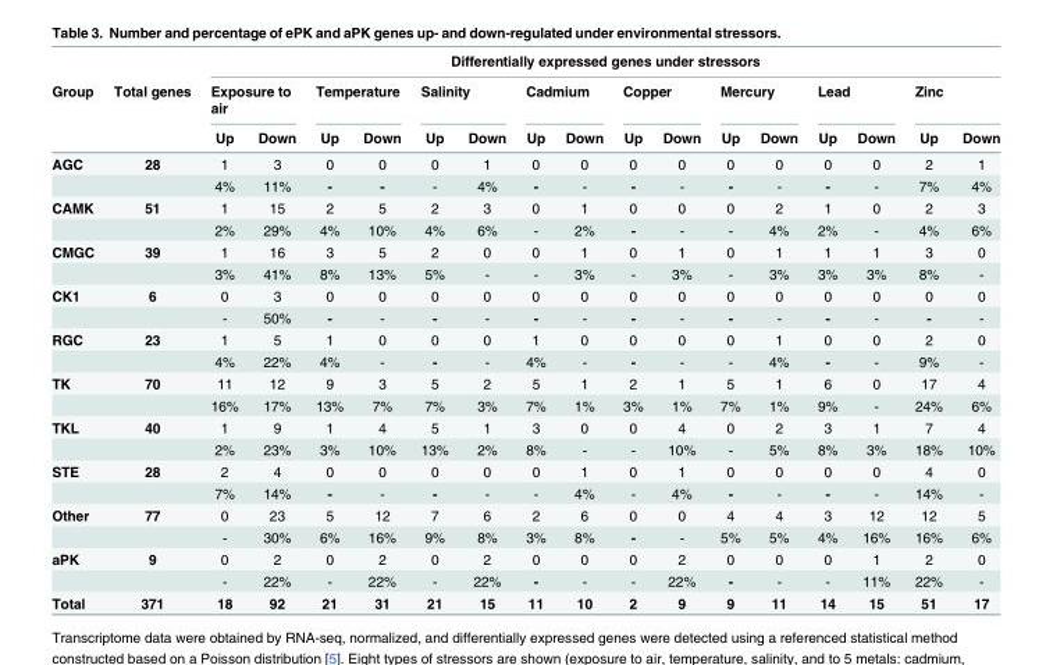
<table><thead><tr><td rowspan="3">Group</td><td rowspan="3">Total genes</td><td colspan="16">Differentially expressed genes under stressors</td></tr><tr><td colspan="2">Exposure to air</td><td colspan="2">Temperature</td><td colspan="2">Salinity</td><td colspan="2">Cadmium</td><td colspan="2">Copper</td><td colspan="2">Mercury</td><td colspan="2">Lead</td><td colspan="2">Zinc</td></tr><tr><td>Up</td><td>Down</td><td>Up</td><td>Down</td><td>Up</td><td>Down</td><td>Up</td><td>Down</td><td>Up</td><td>Down</td><td>Up</td><td>Down</td><td>Up</td><td>Down</td><td>Up</td><td>Down</td></tr></thead><tbody><tr><td rowspan="2">AGC</td><td>28</td><td>1</td><td>3</td><td>0</td><td>0</td><td>0</td><td>1</td><td>0</td><td>0</td><td>0</td><td>0</td><td>0</td><td>0</td><td>0</td><td>0</td><td>2</td><td>1</td></tr><tr><td></td><td>4%</td><td>11%</td><td>-</td><td>-</td><td>-</td><td>4%</td><td>-</td><td>-</td><td>-</td><td>-</td><td>-</td><td>-</td><td>-</td><td>-</td><td>7%</td><td>4%</td></tr><tr><td rowspan="2">CAMK</td><td>51</td><td>1</td><td>15</td><td>2</td><td>5</td><td>2</td><td>3</td><td>0</td><td>1</td><td>0</td><td>0</td><td>0</td><td>2</td><td>1</td><td>0</td><td>2</td><td>3</td></tr><tr><td></td><td>2%</td><td>29%</td><td>4%</td><td>10%</td><td>4%</td><td>6%</td><td>-</td><td>2%</td><td>-</td><td>-</td><td>-</td><td>4%</td><td>2%</td><td>-</td><td>4%</td><td>6%</td></tr><tr><td rowspan="2">CMGC</td><td>39</td><td>1</td><td>16</td><td>3</td><td>5</td><td>2</td><td>0</td><td>0</td><td>1</td><td>0</td><td>1</td><td>0</td><td>1</td><td>1</td><td>1</td><td>3</td><td>0</td></tr><tr><td></td><td>3%</td><td>41%</td><td>8%</td><td>13%</td><td>5%</td><td>-</td><td>-</td><td>3%</td><td>-</td><td>3%</td><td>-</td><td>3%</td><td>3%</td><td>3%</td><td>8%</td><td>-</td></tr><tr><td rowspan="2">CK1</td><td>6</td><td>0</td><td>3</td><td>0</td><td>0</td><td>0</td><td>0</td><td>0</td><td>0</td><td>0</td><td>0</td><td>0</td><td>0</td><td>0</td><td>0</td><td>0</td><td>0</td></tr><tr><td></td><td>-</td><td>50%</td><td>-</td><td>-</td><td>-</td><td>-</td><td>-</td><td>-</td><td>-</td><td>-</td><td>-</td><td>-</td><td>-</td><td>-</td><td>-</td><td>-</td></tr><tr><td rowspan="2">RGC</td><td>23</td><td>1</td><td>5</td><td>1</td><td>0</td><td>0</td><td>0</td><td>1</td><td>0</td><td>0</td><td>0</td><td>0</td><td>1</td><td>0</td><td>0</td><td>2</td><td>0</td></tr><tr><td></td><td>4%</td><td>22%</td><td>4%</td><td>-</td><td>-</td><td>-</td><td>4%</td><td>-</td><td>-</td><td>-</td><td>-</td><td>4%</td><td>-</td><td>-</td><td>9%</td><td>-</td></tr><tr><td rowspan="2">TK</td><td>70</td><td>11</td><td>12</td><td>9</td><td>3</td><td>5</td><td>2</td><td>5</td><td>1</td><td>2</td><td>1</td><td>5</td><td>1</td><td>6</td><td>0</td><td>17</td><td>4</td></tr><tr><td></td><td>16%</td><td>17%</td><td>13%</td><td>7%</td><td>7%</td><td>3%</td><td>7%</td><td>1%</td><td>3%</td><td>1%</td><td>7%</td><td>1%</td><td>9%</td><td>-</td><td>24%</td><td>6%</td></tr><tr><td rowspan="2">TKL</td><td>40</td><td>1</td><td>9</td><td>1</td><td>4</td><td>5</td><td>1</td><td>3</td><td>0</td><td>0</td><td>4</td><td>0</td><td>2</td><td>3</td><td>1</td><td>7</td><td>4</td></tr><tr><td></td><td>2%</td><td>23%</td><td>3%</td><td>10%</td><td>13%</td><td>2%</td><td>8%</td><td>-</td><td>-</td><td>10%</td><td>-</td><td>5%</td><td>8%</td><td>3%</td><td>18%</td><td>10%</td></tr><tr><td rowspan="2">STE</td><td>28</td><td>2</td><td>4</td><td>0</td><td>0</td><td>0</td><td>0</td><td>0</td><td>1</td><td>0</td><td>1</td><td>0</td><td>0</td><td>0</td><td>0</td><td>4</td><td>0</td></tr><tr><td></td><td>7%</td><td>14%</td><td>-</td><td>-</td><td>-</td><td>-</td><td>-</td><td>4%</td><td>-</td><td>4%</td><td>-</td><td>-</td><td>-</td><td>-</td><td>14%</td><td>-</td></tr><tr><td rowspan="2">Other</td><td>77</td><td>0</td><td>23</td><td>5</td><td>12</td><td>7</td><td>6</td><td>2</td><td>6</td><td>0</td><td>0</td><td>4</td><td>4</td><td>3</td><td>12</td><td>12</td><td>5</td></tr><tr><td></td><td>-</td><td>30%</td><td>6%</td><td>16%</td><td>9%</td><td>8%</td><td>3%</td><td>8%</td><td>-</td><td>-</td><td>5%</td><td>5%</td><td>4%</td><td>16%</td><td>16%</td><td>6%</td></tr><tr><td rowspan="2">aPK</td><td>9</td><td>0</td><td>2</td><td>0</td><td>2</td><td>0</td><td>2</td><td>0</td><td>0</td><td>0</td><td>2</td><td>0</td><td>0</td><td>0</td><td>1</td><td>2</td><td>0</td></tr><tr><td></td><td>-</td><td>22%</td><td>-</td><td>22%</td><td>-</td><td>22%</td><td>-</td><td>-</td><td>-</td><td>22%</td><td>-</td><td>-</td><td>-</td><td>11%</td><td>22%</td><td>-</td></tr><tr><td>Total</td><td>371</td><td>18</td><td>92</td><td>21</td><td>31</td><td>21</td><td>15</td><td>11</td><td>10</td><td>2</td><td>9</td><td>9</td><td>11</td><td>14</td><td>15</td><td>51</td><td>17</td></tr></tbody></table>